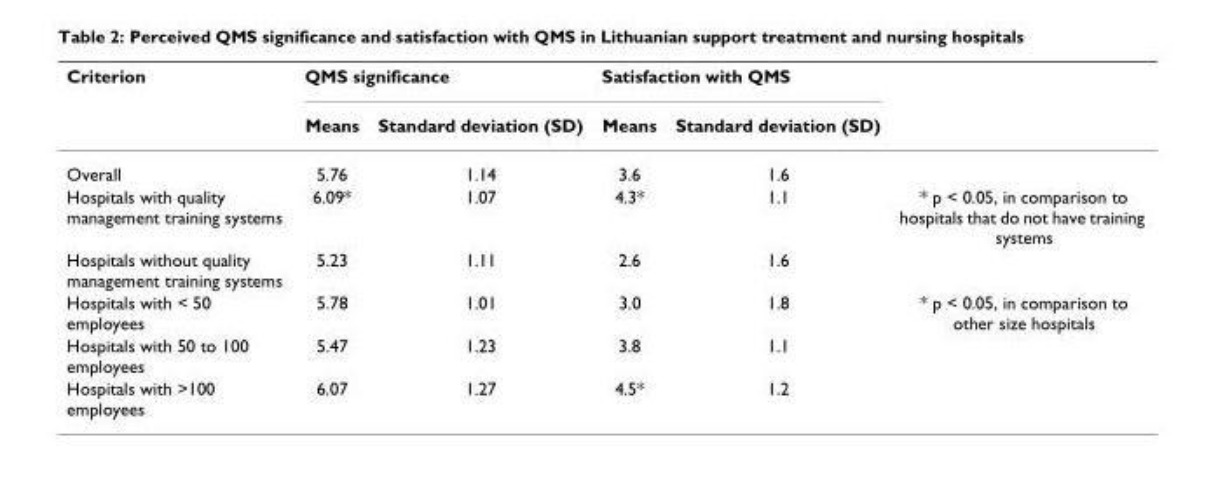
<table><thead><tr><td rowspan="2">Criterion</td><td colspan="2">QMS significance</td><td colspan="2">Satisfaction with QMS</td><td rowspan="2"></td></tr><tr><td>Means</td><td>Standard deviation (SD)</td><td>Means</td><td>Standard deviation (SD)</td></tr></thead><tbody><tr><td>Overall</td><td>5.76</td><td>1.14</td><td>3.6</td><td>1.6</td><td></td></tr><tr><td>Hospitals with quality management training systems</td><td>6.09*</td><td>1.07</td><td>4.3*</td><td>1.1</td><td>* p &lt; 0.05, in comparison to hospitals that do not have training systems</td></tr><tr><td>Hospitals without quality management training systems</td><td>5.23</td><td>1.11</td><td>2.6</td><td>1.6</td><td></td></tr><tr><td>Hospitals with &lt; 50 employees</td><td>5.78</td><td>1.01</td><td>3.0</td><td>1.8</td><td>* p &lt; 0.05, in comparison to other size hospitals</td></tr><tr><td>Hospitals with 50 to 100 employees</td><td>5.47</td><td>1.23</td><td>3.8</td><td>1.1</td><td></td></tr><tr><td>Hospitals with &gt;100 employees</td><td>6.07</td><td>1.27</td><td>4.5*</td><td>1.2</td><td></td></tr></tbody></table>